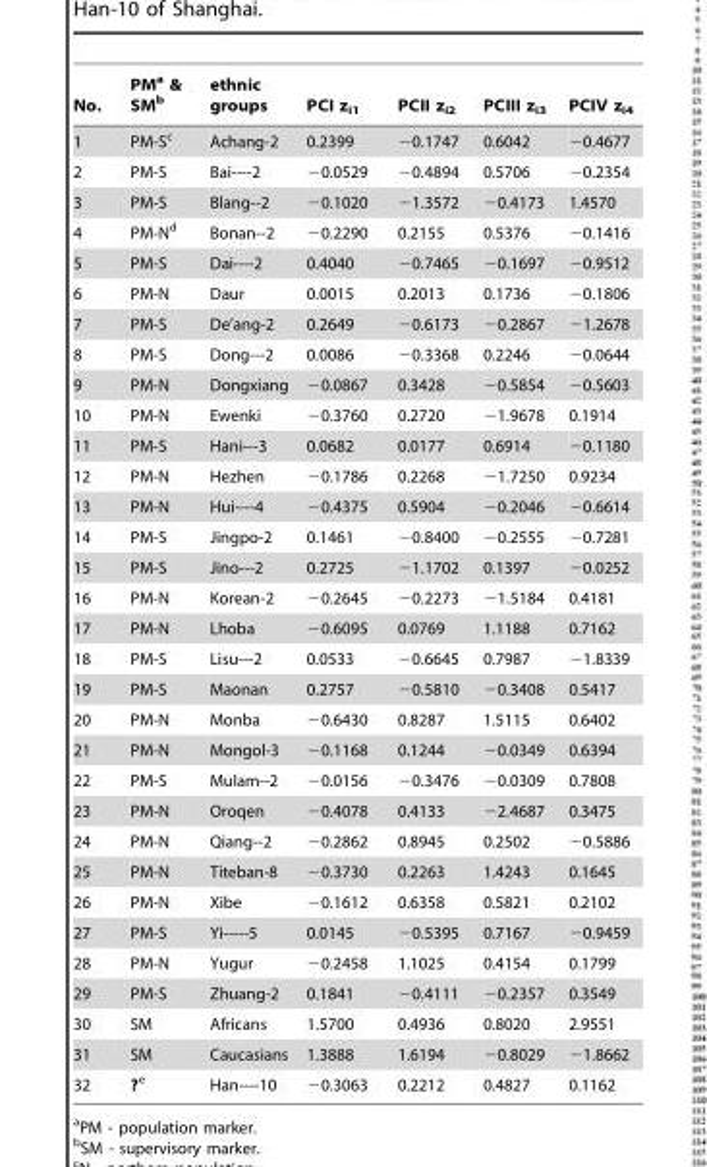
<table><thead><tr><td>No.</td><td>PM<sup>a</sup> &amp; SM<sup>b</sup></td><td>ethnic groups</td><td>PCI z<sub>i1</sub></td><td>PCII z<sub>i2</sub></td><td>PCIII z<sub>i3</sub></td><td>PCIV z<sub>i4</sub></td></tr></thead><tbody><tr><td>1</td><td>PM-S<sup>c</sup></td><td>Achang-2</td><td>0.2399</td><td>−0.1747</td><td>0.6042</td><td>−0.4677</td></tr><tr><td>2</td><td>PM-S</td><td>Bai----2</td><td>−0.0529</td><td>−0.4894</td><td>0.5706</td><td>−0.2354</td></tr><tr><td>3</td><td>PM-S</td><td>Blang--2</td><td>−0.1020</td><td>−1.3572</td><td>−0.4173</td><td>1.4570</td></tr><tr><td>4</td><td>PM-N<sup>d</sup></td><td>Bonan--2</td><td>−0.2290</td><td>0.2155</td><td>0.5376</td><td>−0.1416</td></tr><tr><td>5</td><td>PM-S</td><td>Dai----2</td><td>0.4040</td><td>−0.7465</td><td>−0.1697</td><td>−0.9512</td></tr><tr><td>6</td><td>PM-N</td><td>Daur</td><td>0.0015</td><td>0.2013</td><td>0.1736</td><td>−0.1806</td></tr><tr><td>7</td><td>PM-S</td><td>De’ang-2</td><td>0.2649</td><td>−0.6173</td><td>−0.2867</td><td>−1.2678</td></tr><tr><td>8</td><td>PM-S</td><td>Dong---2</td><td>0.0086</td><td>−0.3368</td><td>0.2246</td><td>−0.0644</td></tr><tr><td>9</td><td>PM-N</td><td>Dongxiang</td><td>−0.0867</td><td>0.3428</td><td>−0.5854</td><td>−0.5603</td></tr><tr><td>10</td><td>PM-N</td><td>Ewenki</td><td>−0.3760</td><td>0.2720</td><td>−1.9678</td><td>0.1914</td></tr><tr><td>11</td><td>PM-S</td><td>Hani---3</td><td>0.0682</td><td>0.0177</td><td>0.6914</td><td>−0.1180</td></tr><tr><td>12</td><td>PM-N</td><td>Hezhen</td><td>−0.1786</td><td>0.2268</td><td>−1.7250</td><td>0.9234</td></tr><tr><td>13</td><td>PM-N</td><td>Hui----4</td><td>−0.4375</td><td>0.5904</td><td>−0.2046</td><td>−0.6614</td></tr><tr><td>14</td><td>PM-S</td><td>Jingpo-2</td><td>0.1461</td><td>−0.8400</td><td>−0.2555</td><td>−0.7281</td></tr><tr><td>15</td><td>PM-S</td><td>Jino---2</td><td>0.2725</td><td>−1.1702</td><td>0.1397</td><td>−0.0252</td></tr><tr><td>16</td><td>PM-N</td><td>Korean-2</td><td>−0.2645</td><td>−0.2273</td><td>−1.5184</td><td>0.4181</td></tr><tr><td>17</td><td>PM-N</td><td>Lhoba</td><td>−0.6095</td><td>0.0769</td><td>1.1188</td><td>0.7162</td></tr><tr><td>18</td><td>PM-S</td><td>Lisu---2</td><td>0.0533</td><td>−0.6645</td><td>0.7987</td><td>−1.8339</td></tr><tr><td>19</td><td>PM-S</td><td>Maonan</td><td>0.2757</td><td>−0.5810</td><td>−0.3408</td><td>0.5417</td></tr><tr><td>20</td><td>PM-N</td><td>Monba</td><td>−0.6430</td><td>0.8287</td><td>1.5115</td><td>0.6402</td></tr><tr><td>21</td><td>PM-N</td><td>Mongol-3</td><td>−0.1168</td><td>0.1244</td><td>−0.0349</td><td>0.6394</td></tr><tr><td>22</td><td>PM-S</td><td>Mulam--2</td><td>−0.0156</td><td>−0.3476</td><td>−0.0309</td><td>0.7808</td></tr><tr><td>23</td><td>PM-N</td><td>Oroqen</td><td>−0.4078</td><td>0.4133</td><td>−2.4687</td><td>0.3475</td></tr><tr><td>24</td><td>PM-N</td><td>Qiang--2</td><td>−0.2862</td><td>0.8945</td><td>0.2502</td><td>−0.5886</td></tr><tr><td>25</td><td>PM-N</td><td>Titeban-8</td><td>−0.3730</td><td>0.2263</td><td>1.4243</td><td>0.1645</td></tr><tr><td>26</td><td>PM-N</td><td>Xibe</td><td>−0.1612</td><td>0.6358</td><td>0.5821</td><td>0.2102</td></tr><tr><td>27</td><td>PM-S</td><td>Yi-----5</td><td>0.0145</td><td>−0.5395</td><td>0.7167</td><td>−0.9459</td></tr><tr><td>28</td><td>PM-N</td><td>Yugur</td><td>−0.2458</td><td>1.1025</td><td>0.4154</td><td>0.1799</td></tr><tr><td>29</td><td>PM-S</td><td>Zhuang-2</td><td>0.1841</td><td>−0.4111</td><td>−0.2357</td><td>0.3549</td></tr><tr><td>30</td><td>SM</td><td>Africans</td><td>1.5700</td><td>0.4936</td><td>0.8020</td><td>2.9551</td></tr><tr><td>31</td><td>SM</td><td>Caucasians</td><td>1.3888</td><td>1.6194</td><td>−0.8029</td><td>−1.8662</td></tr><tr><td>32</td><td>?e</td><td>Han----10</td><td>−0.3063</td><td>0.2212</td><td>0.4827</td><td>0.1162</td></tr></tbody></table>